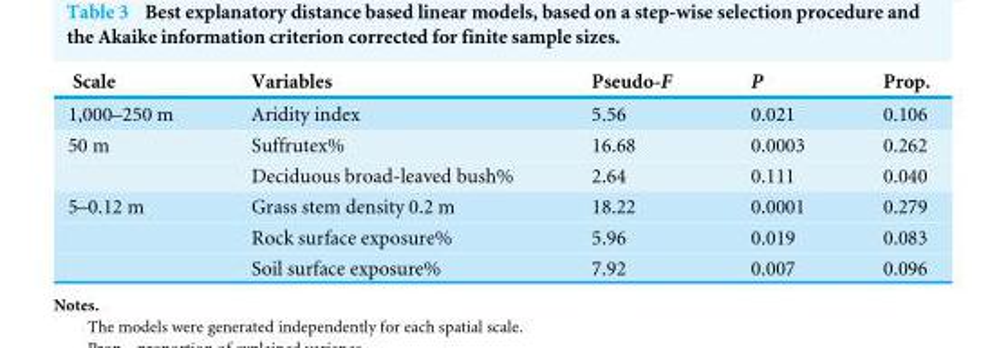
<table><thead><tr><td>Scale</td><td>Variables</td><td>Pseudo-F</td><td>P</td><td>Prop.</td></tr></thead><tbody><tr><td>1,000–250 m</td><td>Aridity index</td><td>5.56</td><td>0.021</td><td>0.106</td></tr><tr><td rowspan="2">50 m</td><td>Suffrutex%</td><td>16.68</td><td>0.0003</td><td>0.262</td></tr><tr><td>Deciduous broad-leaved bush%</td><td>2.64</td><td>0.111</td><td>0.040</td></tr><tr><td rowspan="3">5–0.12 m</td><td>Grass stem density 0.2 m</td><td>18.22</td><td>0.0001</td><td>0.279</td></tr><tr><td>Rock surface exposure%</td><td>5.96</td><td>0.019</td><td>0.083</td></tr><tr><td>Soil surface exposure%</td><td>7.92</td><td>0.007</td><td>0.096</td></tr></tbody></table>